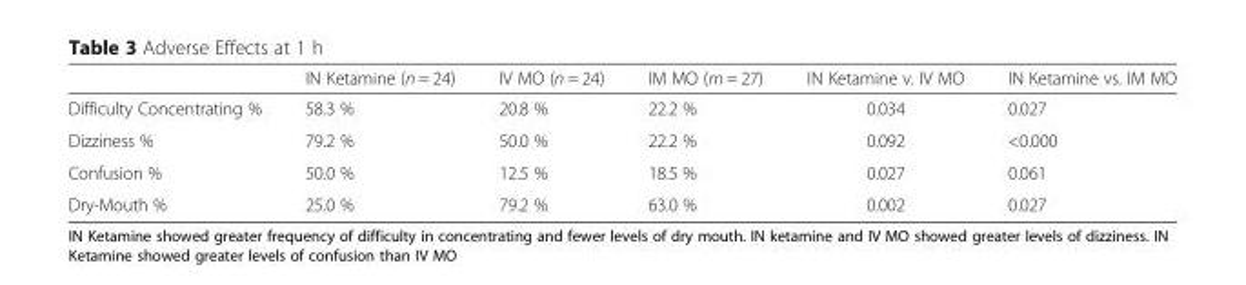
<table><thead><tr><td></td><td>IN Ketamine (n = 24)</td><td>IV MO (n = 24)</td><td>IM MO (m = 27)</td><td>IN Ketamine v. IV MO</td><td>IN Ketamine vs. IM MO</td></tr></thead><tbody><tr><td>Difficulty Concentrating %</td><td>58.3 %</td><td>20.8 %</td><td>22.2 %</td><td>0.034</td><td>0.027</td></tr><tr><td>Dizziness %</td><td>79.2 %</td><td>50.0 %</td><td>22.2 %</td><td>0.092</td><td>&lt;0.000</td></tr><tr><td>Confusion %</td><td>50.0 %</td><td>12.5 %</td><td>18.5 %</td><td>0.027</td><td>0.061</td></tr><tr><td>Dry-Mouth %</td><td>25.0 %</td><td>79.2 %</td><td>63.0 %</td><td>0.002</td><td>0.027</td></tr></tbody></table>